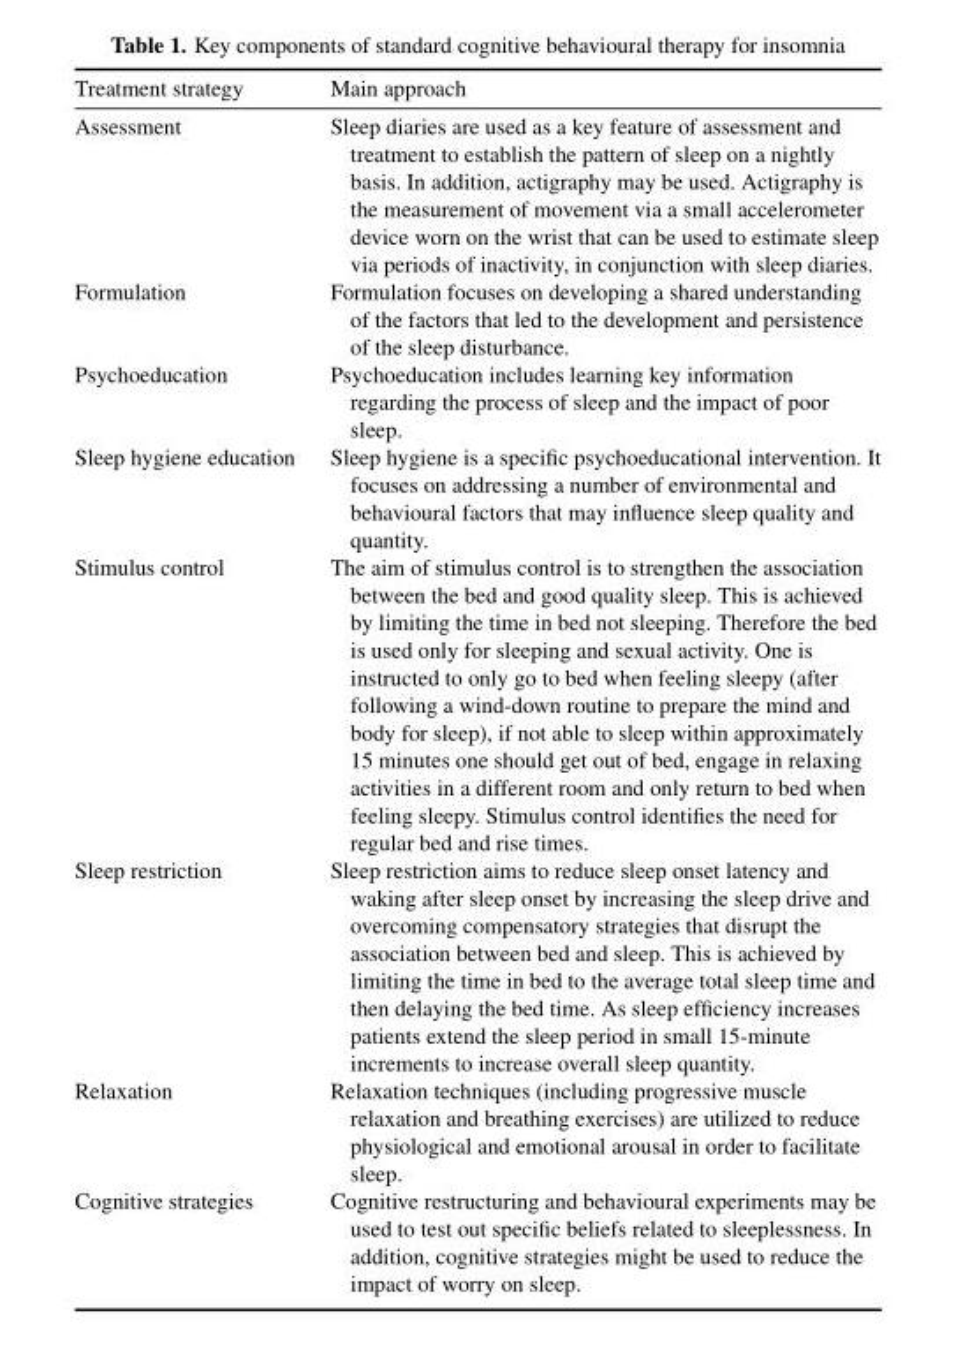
<table><thead><tr><td>Treatment strategy</td><td>Main approach</td></tr></thead><tbody><tr><td>Assessment</td><td>Sleep diaries are used as a key feature of assessment and treatment to establish the pattern of sleep on a nightly basis. In addition, actigraphy may be used. Actigraphy is the measurement of movement via a small accelerometer device worn on the wrist that can be used to estimate sleep via periods of inactivity, in conjunction with sleep diaries.</td></tr><tr><td>Formulation</td><td>Formulation focuses on developing a shared understanding of the factors that led to the development and persistence of the sleep disturbance.</td></tr><tr><td>Psychoeducation</td><td>Psychoeducation includes learning key information regarding the process of sleep and the impact of poor sleep.</td></tr><tr><td>Sleep hygiene education</td><td>Sleep hygiene is a specific psychoeducational intervention. It focuses on addressing a number of environmental and behavioural factors that may influence sleep quality and quantity.</td></tr><tr><td>Stimulus control</td><td>The aim of stimulus control is to strengthen the association between the bed and good quality sleep. This is achieved by limiting the time in bed not sleeping. Therefore the bed is used only for sleeping and sexual activity. One is instructed to only go to bed when feeling sleepy (after following a wind-down routine to prepare the mind and body for sleep), if not able to sleep within approximately 15 minutes one should get out of bed, engage in relaxing activities in a different room and only return to bed when feeling sleepy. Stimulus control identifies the need for regular bed and rise times.</td></tr><tr><td>Sleep restriction</td><td>Sleep restriction aims to reduce sleep onset latency and waking after sleep onset by increasing the sleep drive and overcoming compensatory strategies that disrupt the association between bed and sleep. This is achieved by limiting the time in bed to the average total sleep time and then delaying the bed time. As sleep efficiency increases patients extend the sleep period in small 15-minute increments to increase overall sleep quantity.</td></tr><tr><td>Relaxation</td><td>Relaxation techniques (including progressive muscle relaxation and breathing exercises) are utilized to reduce physiological and emotional arousal in order to facilitate sleep.</td></tr><tr><td>Cognitive strategies</td><td>Cognitive restructuring and behavioural experiments may be used to test out specific beliefs related to sleeplessness. In addition, cognitive strategies might be used to reduce the impact of worry on sleep.</td></tr></tbody></table>